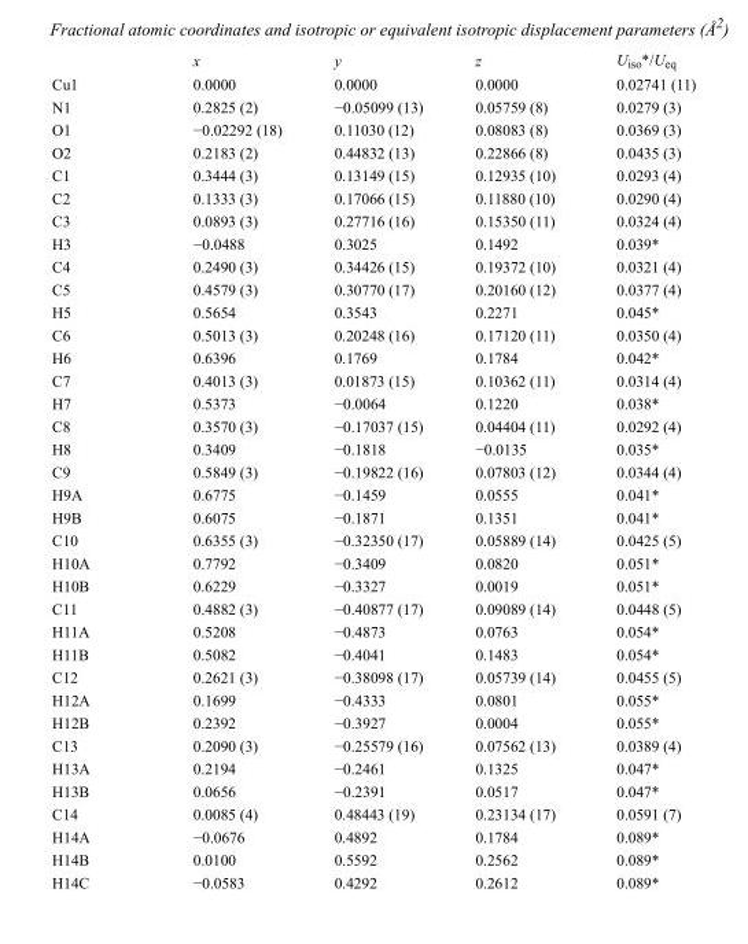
<table><thead><tr><td></td><td>x</td><td>y</td><td>z</td><td>U<sub>iso</sub>*/U<sub>eq</sub></td></tr></thead><tbody><tr><td>Cu1</td><td>0.0000</td><td>0.0000</td><td>0.0000</td><td>0.02741 (11)</td></tr><tr><td>N1</td><td>0.2825 (2)</td><td>−0.05099 (13)</td><td>0.05759 (8)</td><td>0.0279 (3)</td></tr><tr><td>O1</td><td>−0.02292 (18)</td><td>0.11030 (12)</td><td>0.08083 (8)</td><td>0.0369 (3)</td></tr><tr><td>O2</td><td>0.2183 (2)</td><td>0.44832 (13)</td><td>0.22866 (8)</td><td>0.0435 (3)</td></tr><tr><td>C1</td><td>0.3444 (3)</td><td>0.13149 (15)</td><td>0.12935 (10)</td><td>0.0293 (4)</td></tr><tr><td>C2</td><td>0.1333 (3)</td><td>0.17066 (15)</td><td>0.11880 (10)</td><td>0.0290 (4)</td></tr><tr><td>C3</td><td>0.0893 (3)</td><td>0.27716 (16)</td><td>0.15350 (11)</td><td>0.0324 (4)</td></tr><tr><td>H3</td><td>−0.0488</td><td>0.3025</td><td>0.1492</td><td>0.039*</td></tr><tr><td>C4</td><td>0.2490 (3)</td><td>0.34426 (15)</td><td>0.19372 (10)</td><td>0.0321 (4)</td></tr><tr><td>C5</td><td>0.4579 (3)</td><td>0.30770 (17)</td><td>0.20160 (12)</td><td>0.0377 (4)</td></tr><tr><td>H5</td><td>0.5654</td><td>0.3543</td><td>0.2271</td><td>0.045*</td></tr><tr><td>C6</td><td>0.5013 (3)</td><td>0.20248 (16)</td><td>0.17120 (11)</td><td>0.0350 (4)</td></tr><tr><td>H6</td><td>0.6396</td><td>0.1769</td><td>0.1784</td><td>0.042*</td></tr><tr><td>C7</td><td>0.4013 (3)</td><td>0.01873 (15)</td><td>0.10362 (11)</td><td>0.0314 (4)</td></tr><tr><td>H7</td><td>0.5373</td><td>−0.0064</td><td>0.1220</td><td>0.038*</td></tr><tr><td>C8</td><td>0.3570 (3)</td><td>−0.17037 (15)</td><td>0.04404 (11)</td><td>0.0292 (4)</td></tr><tr><td>H8</td><td>0.3409</td><td>−0.1818</td><td>−0.0135</td><td>0.035*</td></tr><tr><td>C9</td><td>0.5849 (3)</td><td>−0.19822 (16)</td><td>0.07803 (12)</td><td>0.0344 (4)</td></tr><tr><td>H9A</td><td>0.6775</td><td>−0.1459</td><td>0.0555</td><td>0.041*</td></tr><tr><td>H9B</td><td>0.6075</td><td>−0.1871</td><td>0.1351</td><td>0.041*</td></tr><tr><td>C10</td><td>0.6355 (3)</td><td>−0.32350 (17)</td><td>0.05889 (14)</td><td>0.0425 (5)</td></tr><tr><td>H10A</td><td>0.7792</td><td>−0.3409</td><td>0.0820</td><td>0.051*</td></tr><tr><td>H10B</td><td>0.6229</td><td>−0.3327</td><td>0.0019</td><td>0.051*</td></tr><tr><td>C11</td><td>0.4882 (3)</td><td>−0.40877 (17)</td><td>0.09089 (14)</td><td>0.0448 (5)</td></tr><tr><td>H11A</td><td>0.5208</td><td>−0.4873</td><td>0.0763</td><td>0.054*</td></tr><tr><td>H11B</td><td>0.5082</td><td>−0.4041</td><td>0.1483</td><td>0.054*</td></tr><tr><td>C12</td><td>0.2621 (3)</td><td>−0.38098 (17)</td><td>0.05739 (14)</td><td>0.0455 (5)</td></tr><tr><td>H12A</td><td>0.1699</td><td>−0.4333</td><td>0.0801</td><td>0.055*</td></tr><tr><td>H12B</td><td>0.2392</td><td>−0.3927</td><td>0.0004</td><td>0.055*</td></tr><tr><td>C13</td><td>0.2090 (3)</td><td>−0.25579 (16)</td><td>0.07562 (13)</td><td>0.0389 (4)</td></tr><tr><td>H13A</td><td>0.2194</td><td>−0.2461</td><td>0.1325</td><td>0.047*</td></tr><tr><td>H13B</td><td>0.0656</td><td>−0.2391</td><td>0.0517</td><td>0.047*</td></tr><tr><td>C14</td><td>0.0085 (4)</td><td>0.48443 (19)</td><td>0.23134 (17)</td><td>0.0591 (7)</td></tr><tr><td>H14A</td><td>−0.0676</td><td>0.4892</td><td>0.1784</td><td>0.089*</td></tr><tr><td>H14B</td><td>0.0100</td><td>0.5592</td><td>0.2562</td><td>0.089*</td></tr><tr><td>H14C</td><td>−0.0583</td><td>0.4292</td><td>0.2612</td><td>0.089*</td></tr></tbody></table>